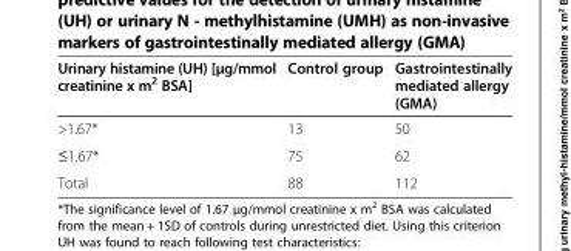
<table><thead><tr><td>Urinary histamine (UH) [μg/mmol creatinine x m<sup>2</sup> BSA]</td><td>Control group</td><td>Gastrointestinally mediated allergy (GMA)</td></tr></thead><tbody><tr><td>&gt;1.67*</td><td>13</td><td>50</td></tr><tr><td>≤1.67*</td><td>75</td><td>62</td></tr><tr><td>Total</td><td>88</td><td>112</td></tr></tbody></table>